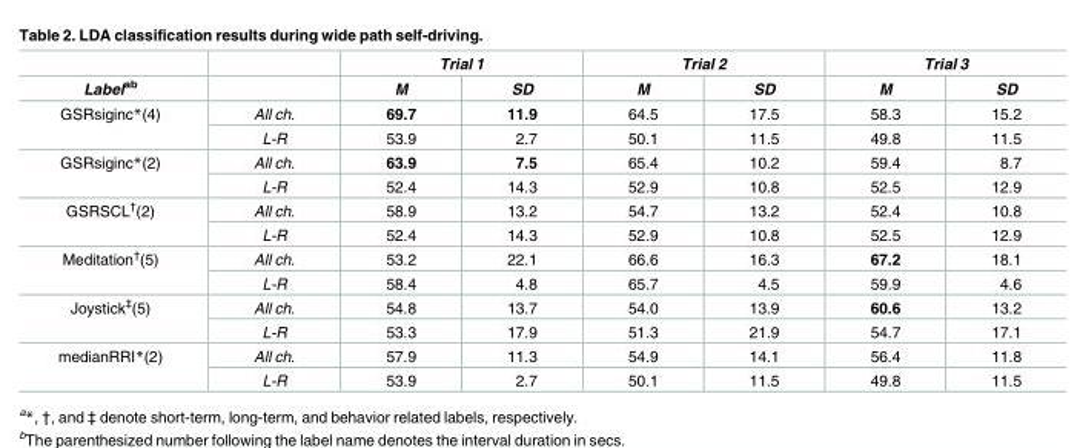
<table><thead><tr><td rowspan="2">Label<sup>ab</sup></td><td rowspan="2"></td><td colspan="2">Trial 1</td><td colspan="2">Trial 2</td><td colspan="2">Trial 3</td></tr><tr><td>M</td><td>SD</td><td>M</td><td>SD</td><td>M</td><td>SD</td></tr></thead><tbody><tr><td rowspan="2">GSRsiginc*(4)</td><td>All ch.</td><td>69.7</td><td>11.9</td><td>64.5</td><td>17.5</td><td>58.3</td><td>15.2</td></tr><tr><td>L-R</td><td>53.9</td><td>2.7</td><td>50.1</td><td>11.5</td><td>49.8</td><td>11.5</td></tr><tr><td rowspan="2">GSRsiginc*(2)</td><td>All ch.</td><td>63.9</td><td>7.5</td><td>65.4</td><td>10.2</td><td>59.4</td><td>8.7</td></tr><tr><td>L-R</td><td>52.4</td><td>14.3</td><td>52.9</td><td>10.8</td><td>52.5</td><td>12.9</td></tr><tr><td rowspan="2">GSRSCL<sup>†</sup>(2)</td><td>All ch.</td><td>58.9</td><td>13.2</td><td>54.7</td><td>13.2</td><td>52.4</td><td>10.8</td></tr><tr><td>L-R</td><td>52.4</td><td>14.3</td><td>52.9</td><td>10.8</td><td>52.5</td><td>12.9</td></tr><tr><td rowspan="2">Meditation<sup>†</sup>(5)</td><td>All ch.</td><td>53.2</td><td>22.1</td><td>66.6</td><td>16.3</td><td>67.2</td><td>18.1</td></tr><tr><td>L-R</td><td>58.4</td><td>4.8</td><td>65.7</td><td>4.5</td><td>59.9</td><td>4.6</td></tr><tr><td rowspan="2">Joystick<sup>‡</sup>(5)</td><td>All ch.</td><td>54.8</td><td>13.7</td><td>54.0</td><td>13.9</td><td>60.6</td><td>13.2</td></tr><tr><td>L-R</td><td>53.3</td><td>17.9</td><td>51.3</td><td>21.9</td><td>54.7</td><td>17.1</td></tr><tr><td rowspan="2">medianRRI*(2)</td><td>All ch.</td><td>57.9</td><td>11.3</td><td>54.9</td><td>14.1</td><td>56.4</td><td>11.8</td></tr><tr><td>L-R</td><td>53.9</td><td>2.7</td><td>50.1</td><td>11.5</td><td>49.8</td><td>11.5</td></tr></tbody></table>